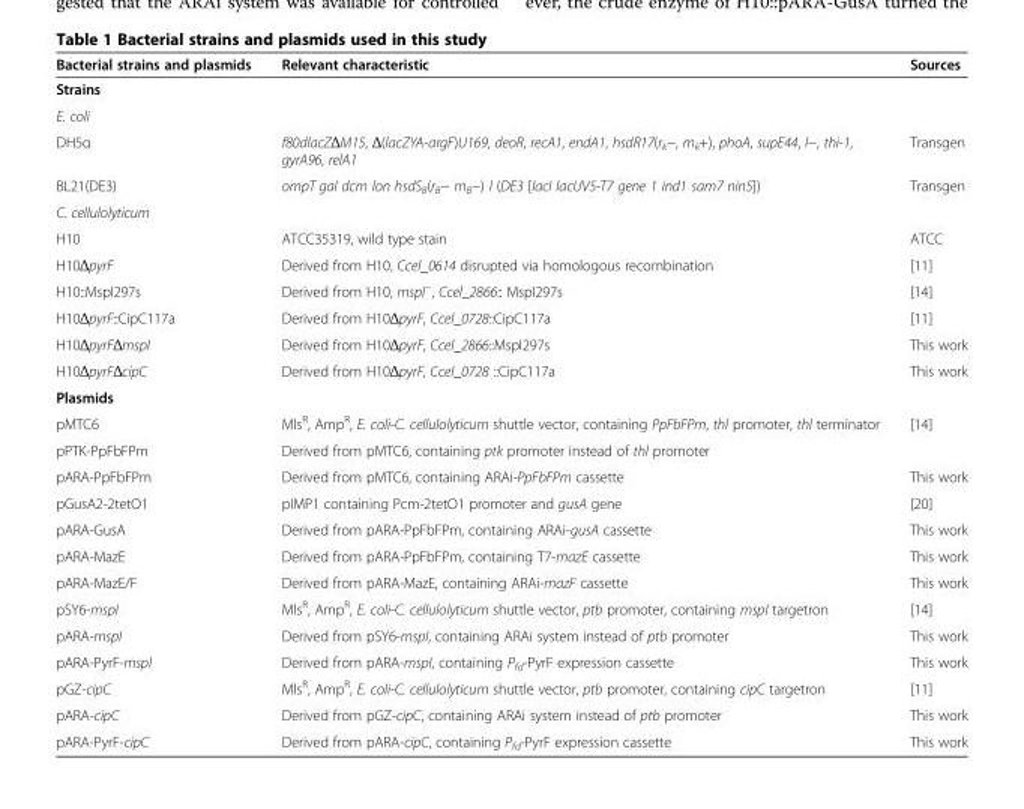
<table><thead><tr><td>Bacterial strains and plasmids</td><td>Relevant characteristic</td><td>Sources</td></tr></thead><tbody><tr><td colspan="3">Strains</td></tr><tr><td colspan="3">E. coli</td></tr><tr><td>DH5α</td><td>f80dlacZΔM15, Δ(lacZYA-argF)U169, deoR, recA1, endA1, hsdR17(r<sub>k</sub>−, m<sub>k</sub>+), phoA, supE44, l−, thi-1, gyrA96, relA1</td><td>Transgen</td></tr><tr><td>BL21(DE3)</td><td>ompT gal dcm lon hsdS<sub>B</sub>(r<sub>B</sub>− m<sub>B</sub>−) l (DE3 [lacI lacUV5-T7 gene 1 ind1 sam7 nin5])</td><td>Transgen</td></tr><tr><td colspan="3">C. cellulolyticum</td></tr><tr><td>H10</td><td>ATCC35319, wild type stain</td><td>ATCC</td></tr><tr><td>H10ΔpyrF</td><td>Derived from H10, Ccel_0614 disrupted via homologous recombination</td><td>[11]</td></tr><tr><td>H10::MspI297s</td><td>Derived from H10, mspI<sup>−</sup>, Ccel_2866:: MspI297s</td><td>[14]</td></tr><tr><td>H10ΔpyrF::CipC117a</td><td>Derived from H10ΔpyrF, Ccel_0728::CipC117a</td><td>[11]</td></tr><tr><td>H10ΔpyrFΔmspI</td><td>Derived from H10ΔpyrF, Ccel_2866::MspI297s</td><td>This work</td></tr><tr><td>H10ΔpyrFΔcipC</td><td>Derived from H10ΔpyrF, Ccel_0728 ::CipC117a</td><td>This work</td></tr><tr><td colspan="3">Plasmids</td></tr><tr><td>pMTC6</td><td>Mls<sup>R</sup>, Amp<sup>R</sup>, E. coli-C. cellulolyticum shuttle vector, containing PpFbFPm, thl promoter, thl terminator</td><td>[14]</td></tr><tr><td>pPTK-PpFbFPm</td><td>Derived from pMTC6, containing ptk promoter instead of thl promoter</td><td></td></tr><tr><td>pARA-PpFbFPm</td><td>Derived from pMTC6, containing ARAi-PpFbFPm cassette</td><td>This work</td></tr><tr><td>pGusA2-2tetO1</td><td>pIMP1 containing Pcm-2tetO1 promoter and gusA gene</td><td>[20]</td></tr><tr><td>pARA-GusA</td><td>Derived from pARA-PpFbFPm, containing ARAi-gusA cassette</td><td>This work</td></tr><tr><td>pARA-MazE</td><td>Derived from pARA-PpFbFPm, containing T7-mazE cassette</td><td>This work</td></tr><tr><td>pARA-MazE/F</td><td>Derived from pARA-MazE, containing ARAi-mazF cassette</td><td>This work</td></tr><tr><td>pSY6-mspI</td><td>Mls<sup>R</sup>, Amp<sup>R</sup>, E. coli-C. cellulolyticum shuttle vector, ptb promoter, containing mspI targetron</td><td>[14]</td></tr><tr><td>pARA-mspI</td><td>Derived from pSY6-mspI, containing ARAi system instead of ptb promoter</td><td>This work</td></tr><tr><td>pARA-PyrF-mspI</td><td>Derived from pARA-mspI, containing P<sub>fd</sub>-PyrF expression cassette</td><td>This work</td></tr><tr><td>pGZ-cipC</td><td>Mls<sup>R</sup>, Amp<sup>R</sup>, E. coli-C. cellulolyticum shuttle vector, ptb promoter, containing cipC targetron</td><td>[11]</td></tr><tr><td>pARA-cipC</td><td>Derived from pGZ-cipC, containing ARAi system instead of ptb promoter</td><td>This work</td></tr><tr><td>pARA-PyrF-cipC</td><td>Derived from pARA-cipC, containing P<sub>fd</sub>-PyrF expression cassette</td><td>This work</td></tr></tbody></table>